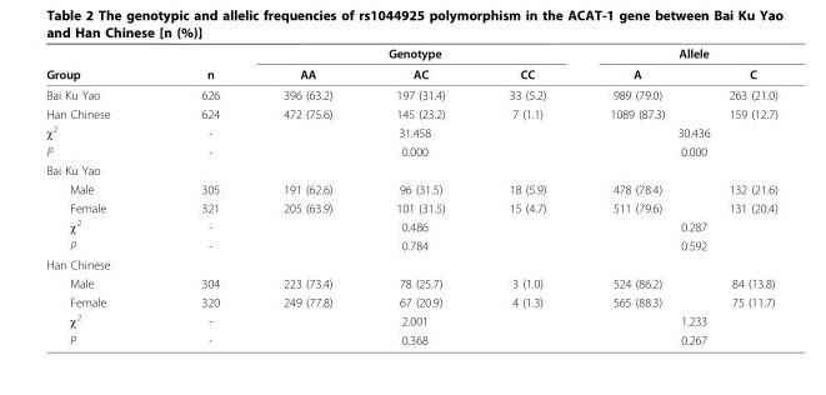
<table><thead><tr><td rowspan="2">Group</td><td rowspan="2">n</td><td colspan="3">Genotype</td><td colspan="2">Allele</td></tr><tr><td>AA</td><td>AC</td><td>CC</td><td>A</td><td>C</td></tr></thead><tbody><tr><td>Bai Ku Yao</td><td>626</td><td>396 (63.2)</td><td>197 (31.4)</td><td>33 (5.2)</td><td>989 (79.0)</td><td>263 (21.0)</td></tr><tr><td>Han Chinese</td><td>624</td><td>472 (75.6)</td><td>145 (23.2)</td><td>7 (1.1)</td><td>1089 (87.3)</td><td>159 (12.7)</td></tr><tr><td>χ<sup>2</sup></td><td>-</td><td colspan="3">31.458</td><td colspan="2">30.436</td></tr><tr><td>P</td><td>-</td><td colspan="3">0.000</td><td colspan="2">0.000</td></tr><tr><td colspan="7">Bai Ku Yao</td></tr><tr><td>Male</td><td>305</td><td>191 (62.6)</td><td>96 (31.5)</td><td>18 (5.9)</td><td>478 (78.4)</td><td>132 (21.6)</td></tr><tr><td>Female</td><td>321</td><td>205 (63.9)</td><td>101 (31.5)</td><td>15 (4.7)</td><td>511 (79.6)</td><td>131 (20.4)</td></tr><tr><td>χ<sup>2</sup></td><td>-</td><td colspan="3">0.486</td><td colspan="2">0.287</td></tr><tr><td>P</td><td>-</td><td colspan="3">0.784</td><td colspan="2">0.592</td></tr><tr><td colspan="7">Han Chinese</td></tr><tr><td>Male</td><td>304</td><td>223 (73.4)</td><td>78 (25.7)</td><td>3 (1.0)</td><td>524 (86.2)</td><td>84 (13.8)</td></tr><tr><td>Female</td><td>320</td><td>249 (77.8)</td><td>67 (20.9)</td><td>4 (1.3)</td><td>565 (88.3)</td><td>75 (11.7)</td></tr><tr><td>χ<sup>2</sup></td><td>-</td><td colspan="3">2.001</td><td colspan="2">1.233</td></tr><tr><td>P</td><td>-</td><td colspan="3">0.368</td><td colspan="2">0.267</td></tr></tbody></table>